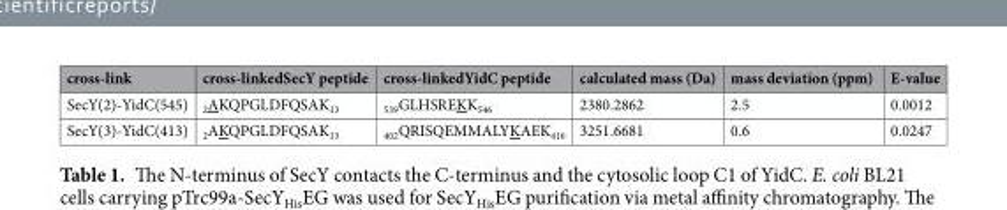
<table><thead><tr><td>cross-link</td><td>cross-linkedSecY peptide</td><td>cross-linkedYidC peptide</td><td>calculated mass (Da)</td><td>mass deviation (ppm)</td><td>E-value</td></tr></thead><tbody><tr><td>SecY(2)-YidC(545)</td><td><sub>2</sub>AKQPGLDFQSAK<sub>13</sub></td><td><sub>539</sub>GLHSREKK<sub>546</sub></td><td>2380.2862</td><td>2.5</td><td>0.0012</td></tr><tr><td>SecY(3)-YidC(413)</td><td><sub>2</sub>AKQPGLDFQSAK<sub>13</sub></td><td><sub>402</sub>QRISQEMMALYKAEK<sub>416</sub></td><td>3251.6681</td><td>0.6</td><td>0.0247</td></tr></tbody></table>